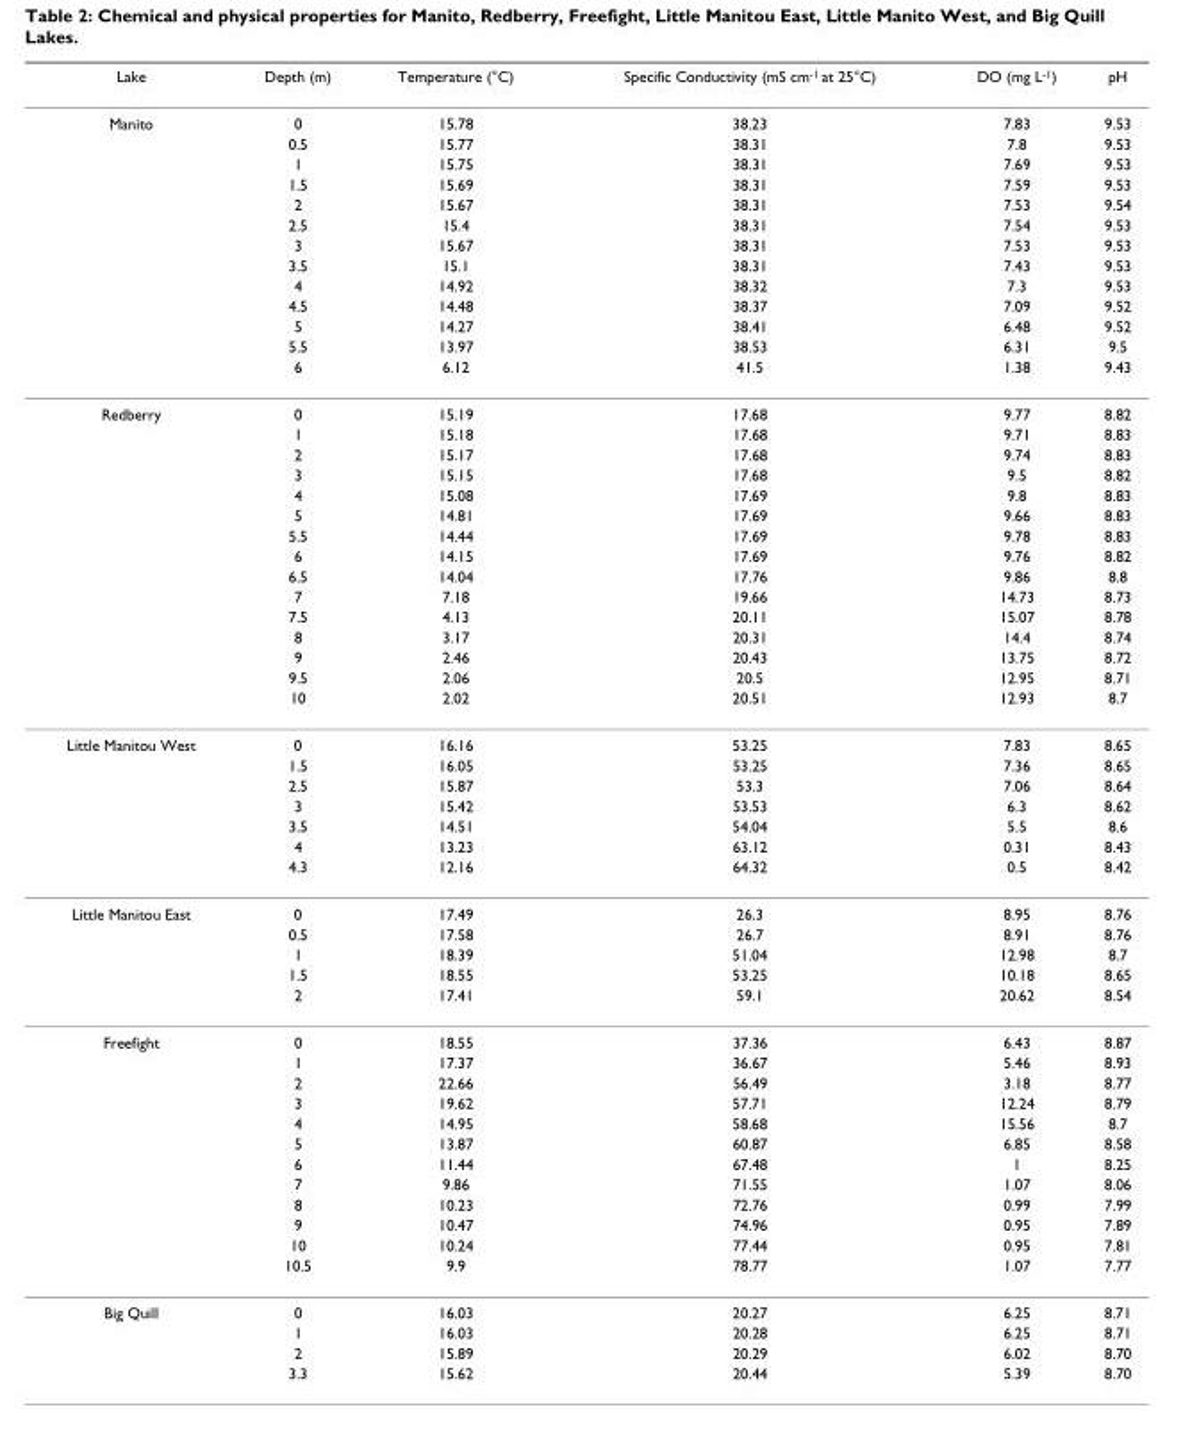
<table><thead><tr><td>Lake</td><td>Depth (m)</td><td>Temperature (°C)</td><td>Specific Conductivity (mS cm<sup>-1</sup> at 25°C)</td><td>DO (mg L<sup>-1</sup>)</td><td>pH</td></tr></thead><tbody><tr><td rowspan="13">Manito</td><td>0</td><td>15.78</td><td>38.23</td><td>7.83</td><td>9.53</td></tr><tr><td>0.5</td><td>15.77</td><td>38.31</td><td>7.8</td><td>9.53</td></tr><tr><td>1</td><td>15.75</td><td>38.31</td><td>7.69</td><td>9.53</td></tr><tr><td>1.5</td><td>15.69</td><td>38.31</td><td>7.59</td><td>9.53</td></tr><tr><td>2</td><td>15.67</td><td>38.31</td><td>7.53</td><td>9.54</td></tr><tr><td>2.5</td><td>15.4</td><td>38.31</td><td>7.54</td><td>9.53</td></tr><tr><td>3</td><td>15.67</td><td>38.31</td><td>7.53</td><td>9.53</td></tr><tr><td>3.5</td><td>15.1</td><td>38.31</td><td>7.43</td><td>9.53</td></tr><tr><td>4</td><td>14.92</td><td>38.32</td><td>7.3</td><td>9.53</td></tr><tr><td>4.5</td><td>14.48</td><td>38.37</td><td>7.09</td><td>9.52</td></tr><tr><td>5</td><td>14.27</td><td>38.41</td><td>6.48</td><td>9.52</td></tr><tr><td>5.5</td><td>13.97</td><td>38.53</td><td>6.31</td><td>9.5</td></tr><tr><td>6</td><td>6.12</td><td>41.5</td><td>1.38</td><td>9.43</td></tr><tr><td rowspan="15">Redberry</td><td>0</td><td>15.19</td><td>17.68</td><td>9.77</td><td>8.82</td></tr><tr><td>1</td><td>15.18</td><td>17.68</td><td>9.71</td><td>8.83</td></tr><tr><td>2</td><td>15.17</td><td>17.68</td><td>9.74</td><td>8.83</td></tr><tr><td>3</td><td>15.15</td><td>17.68</td><td>9.5</td><td>8.82</td></tr><tr><td>4</td><td>15.08</td><td>17.69</td><td>9.8</td><td>8.83</td></tr><tr><td>5</td><td>14.81</td><td>17.69</td><td>9.66</td><td>8.83</td></tr><tr><td>5.5</td><td>14.44</td><td>17.69</td><td>9.78</td><td>8.83</td></tr><tr><td>6</td><td>14.15</td><td>17.69</td><td>9.76</td><td>8.82</td></tr><tr><td>6.5</td><td>14.04</td><td>17.76</td><td>9.86</td><td>8.8</td></tr><tr><td>7</td><td>7.18</td><td>19.66</td><td>14.73</td><td>8.73</td></tr><tr><td>7.5</td><td>4.13</td><td>20.11</td><td>15.07</td><td>8.78</td></tr><tr><td>8</td><td>3.17</td><td>20.31</td><td>14.4</td><td>8.74</td></tr><tr><td>9</td><td>2.46</td><td>20.43</td><td>13.75</td><td>8.72</td></tr><tr><td>9.5</td><td>2.06</td><td>20.5</td><td>12.95</td><td>8.71</td></tr><tr><td>10</td><td>2.02</td><td>20.51</td><td>12.93</td><td>8.7</td></tr><tr><td rowspan="7">Little Manitou West</td><td>0</td><td>16.16</td><td>53.25</td><td>7.83</td><td>8.65</td></tr><tr><td>1.5</td><td>16.05</td><td>53.25</td><td>7.36</td><td>8.65</td></tr><tr><td>2.5</td><td>15.87</td><td>53.3</td><td>7.06</td><td>8.64</td></tr><tr><td>3</td><td>15.42</td><td>53.53</td><td>6.3</td><td>8.62</td></tr><tr><td>3.5</td><td>14.51</td><td>54.04</td><td>5.5</td><td>8.6</td></tr><tr><td>4</td><td>13.23</td><td>63.12</td><td>0.31</td><td>8.43</td></tr><tr><td>4.3</td><td>12.16</td><td>64.32</td><td>0.5</td><td>8.42</td></tr><tr><td rowspan="5">Little Manitou East</td><td>0</td><td>17.49</td><td>26.3</td><td>8.95</td><td>8.76</td></tr><tr><td>0.5</td><td>17.58</td><td>26.7</td><td>8.91</td><td>8.76</td></tr><tr><td>1</td><td>18.39</td><td>51.04</td><td>12.98</td><td>8.7</td></tr><tr><td>1.5</td><td>18.55</td><td>53.25</td><td>10.18</td><td>8.65</td></tr><tr><td>2</td><td>17.41</td><td>59.1</td><td>20.62</td><td>8.54</td></tr><tr><td rowspan="12">Freefight</td><td>0</td><td>18.55</td><td>37.36</td><td>6.43</td><td>8.87</td></tr><tr><td>1</td><td>17.37</td><td>36.67</td><td>5.46</td><td>8.93</td></tr><tr><td>2</td><td>22.66</td><td>56.49</td><td>3.18</td><td>8.77</td></tr><tr><td>3</td><td>19.62</td><td>57.71</td><td>12.24</td><td>8.79</td></tr><tr><td>4</td><td>14.95</td><td>58.68</td><td>15.56</td><td>8.7</td></tr><tr><td>5</td><td>13.87</td><td>60.87</td><td>6.85</td><td>8.58</td></tr><tr><td>6</td><td>11.44</td><td>67.48</td><td>1</td><td>8.25</td></tr><tr><td>7</td><td>9.86</td><td>71.55</td><td>1.07</td><td>8.06</td></tr><tr><td>8</td><td>10.23</td><td>72.76</td><td>0.99</td><td>7.99</td></tr><tr><td>9</td><td>10.47</td><td>74.96</td><td>0.95</td><td>7.89</td></tr><tr><td>10</td><td>10.24</td><td>77.44</td><td>0.95</td><td>7.81</td></tr><tr><td>10.5</td><td>9.9</td><td>78.77</td><td>1.07</td><td>7.77</td></tr><tr><td rowspan="4">Big Quill</td><td>0</td><td>16.03</td><td>20.27</td><td>6.25</td><td>8.71</td></tr><tr><td>1</td><td>16.03</td><td>20.28</td><td>6.25</td><td>8.71</td></tr><tr><td>2</td><td>15.89</td><td>20.29</td><td>6.02</td><td>8.70</td></tr><tr><td>3.3</td><td>15.62</td><td>20.44</td><td>5.39</td><td>8.70</td></tr></tbody></table>